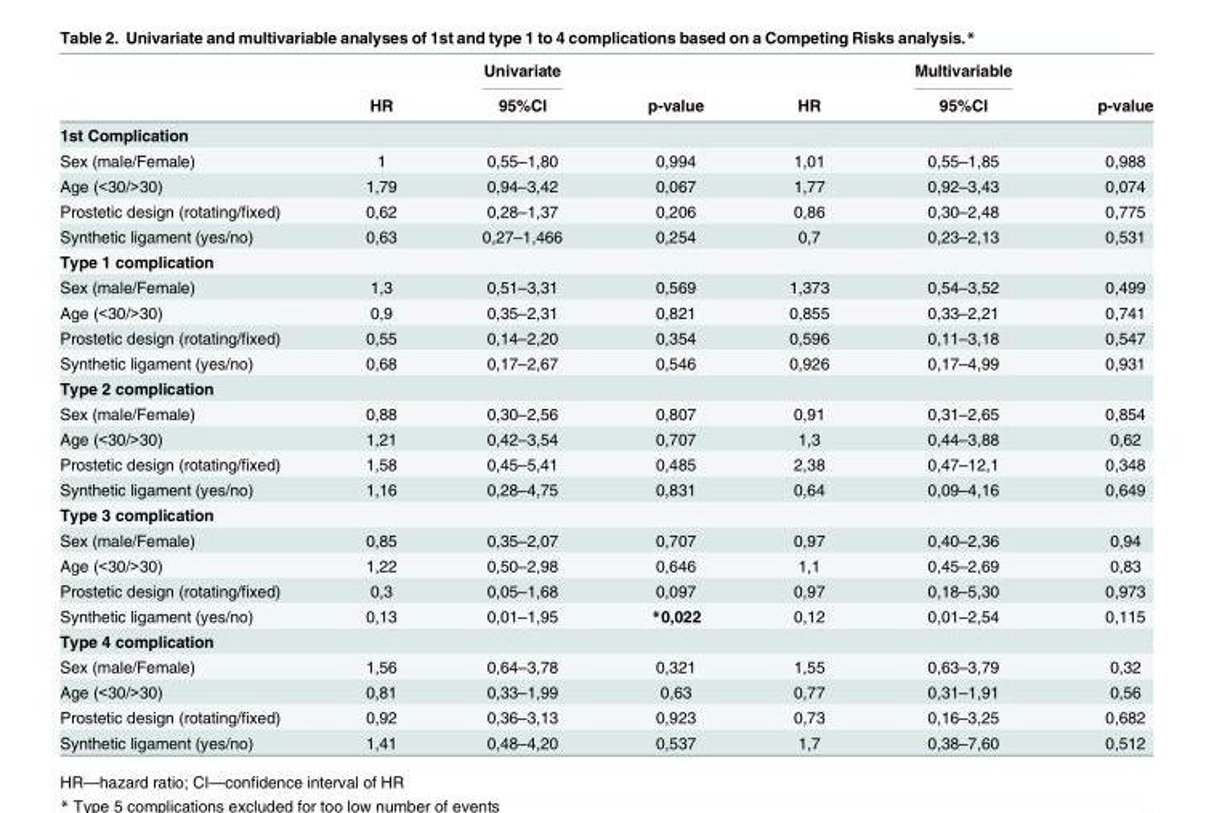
<table><thead><tr><td rowspan="2"></td><td rowspan="2">HR</td><td rowspan="2">Univariate 95%CI</td><td rowspan="2">p-value</td><td rowspan="2">HR</td><td rowspan="2">Multivariable 95%CI</td><td rowspan="2">p-value</td></tr><tr></tr></thead><tbody><tr><td colspan="7">1st Complication</td></tr><tr><td>Sex (male/Female)</td><td>1</td><td>0,55–1,80</td><td>0,994</td><td>1,01</td><td>0,55–1,85</td><td>0,988</td></tr><tr><td>Age (&lt;30/&gt;30)</td><td>1,79</td><td>0,94–3,42</td><td>0,067</td><td>1,77</td><td>0,92–3,43</td><td>0,074</td></tr><tr><td>Prostetic design (rotating/fixed)</td><td>0,62</td><td>0,28–1,37</td><td>0,206</td><td>0,86</td><td>0,30–2,48</td><td>0,775</td></tr><tr><td>Synthetic ligament (yes/no)</td><td>0,63</td><td>0,27–1,466</td><td>0,254</td><td>0,7</td><td>0,23–2,13</td><td>0,531</td></tr><tr><td colspan="7">Type 1 complication</td></tr><tr><td>Sex (male/Female)</td><td>1,3</td><td>0,51–3,31</td><td>0,569</td><td>1,373</td><td>0,54–3,52</td><td>0,499</td></tr><tr><td>Age (&lt;30/&gt;30)</td><td>0,9</td><td>0,35–2,31</td><td>0,821</td><td>0,855</td><td>0,33–2,21</td><td>0,741</td></tr><tr><td>Prostetic design (rotating/fixed)</td><td>0,55</td><td>0,14–2,20</td><td>0,354</td><td>0,596</td><td>0,11–3,18</td><td>0,547</td></tr><tr><td>Synthetic ligament (yes/no)</td><td>0,68</td><td>0,17–2,67</td><td>0,546</td><td>0,926</td><td>0,17–4,99</td><td>0,931</td></tr><tr><td colspan="7">Type 2 complication</td></tr><tr><td>Sex (male/Female)</td><td>0,88</td><td>0,30–2,56</td><td>0,807</td><td>0,91</td><td>0,31–2,65</td><td>0,854</td></tr><tr><td>Age (&lt;30/&gt;30)</td><td>1,21</td><td>0,42–3,54</td><td>0,707</td><td>1,3</td><td>0,44–3,88</td><td>0,62</td></tr><tr><td>Prostetic design (rotating/fixed)</td><td>1,58</td><td>0,45–5,41</td><td>0,485</td><td>2,38</td><td>0,47–12,1</td><td>0,348</td></tr><tr><td>Synthetic ligament (yes/no)</td><td>1,16</td><td>0,28–4,75</td><td>0,831</td><td>0,64</td><td>0,09–4,16</td><td>0,649</td></tr><tr><td colspan="7">Type 3 complication</td></tr><tr><td>Sex (male/Female)</td><td>0,85</td><td>0,35–2,07</td><td>0,707</td><td>0,97</td><td>0,40–2,36</td><td>0,94</td></tr><tr><td>Age (&lt;30/&gt;30)</td><td>1,22</td><td>0,50–2,98</td><td>0,646</td><td>1,1</td><td>0,45–2,69</td><td>0,83</td></tr><tr><td>Prostetic design (rotating/fixed)</td><td>0,3</td><td>0,05–1,68</td><td>0,097</td><td>0,97</td><td>0,18–5,30</td><td>0,973</td></tr><tr><td>Synthetic ligament (yes/no)</td><td>0,13</td><td>0,01–1,95</td><td>*0,022</td><td>0,12</td><td>0,01–2,54</td><td>0,115</td></tr><tr><td colspan="7">Type 4 complication</td></tr><tr><td>Sex (male/Female)</td><td>1,56</td><td>0,64–3,78</td><td>0,321</td><td>1,55</td><td>0,63–3,79</td><td>0,32</td></tr><tr><td>Age (&lt;30/&gt;30)</td><td>0,81</td><td>0,33–1,99</td><td>0,63</td><td>0,77</td><td>0,31–1,91</td><td>0,56</td></tr><tr><td>Prostetic design (rotating/fixed)</td><td>0,92</td><td>0,36–3,13</td><td>0,923</td><td>0,73</td><td>0,16–3,25</td><td>0,682</td></tr><tr><td>Synthetic ligament (yes/no)</td><td>1,41</td><td>0,48–4,20</td><td>0,537</td><td>1,7</td><td>0,38–7,60</td><td>0,512</td></tr></tbody></table>